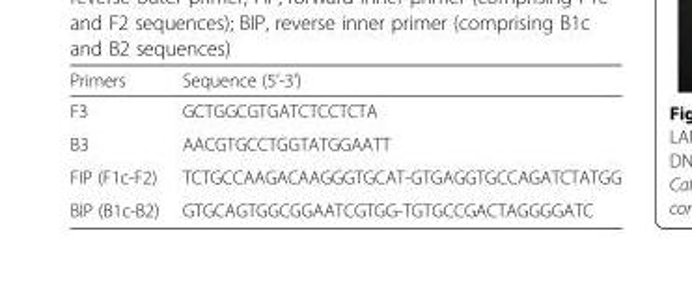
<table><thead><tr><td>Primers</td><td>Sequence (5’-3’)</td></tr></thead><tbody><tr><td>F3</td><td>GCTGGCGTGATCTCCTCTA</td></tr><tr><td>B3</td><td>AACGTGCCTGGTATGGAATT</td></tr><tr><td>FIP (F1c-F2)</td><td>TCTGCCAAGACAAGGGTGCAT-GTGAGGTGCCAGATCTATGG</td></tr><tr><td>BIP (B1c-B2)</td><td>GTGCAGTGGCGGAATCGTGG-TGTGCCGACTAGGGGATC</td></tr></tbody></table>